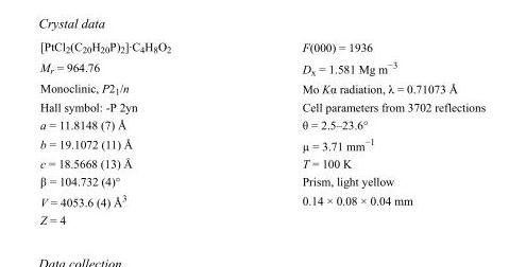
<table><tbody><tr><td>[PtCl<sub>2</sub>(C<sub>20</sub>H<sub>20</sub>P)<sub>2</sub>]·C<sub>4</sub>H<sub>8</sub>O<sub>2</sub></td><td>F(000) = 1936</td></tr><tr><td>M<sub>r</sub> = 964.76</td><td>D<sub>x</sub> = 1.581 Mg m<sup>−3</sup></td></tr><tr><td>Monoclinic, P2<sub>1</sub>/n</td><td>Mo Kα radiation, λ = 0.71073 Å</td></tr><tr><td>Hall symbol: -P 2yn</td><td>Cell parameters from 3702 reflections</td></tr><tr><td>a = 11.8148 (7) Å</td><td>θ = 2.5–23.6°</td></tr><tr><td>b = 19.1072 (11) Å</td><td>µ = 3.71 mm<sup>−1</sup></td></tr><tr><td>c = 18.5668 (13) Å</td><td>T = 100 K</td></tr><tr><td>β = 104.732 (4)°</td><td>Prism, light yellow</td></tr><tr><td>V = 4053.6 (4) Å<sup>3</sup></td><td>0.14 × 0.08 × 0.04 mm</td></tr><tr><td>Z = 4</td><td></td></tr></tbody></table>